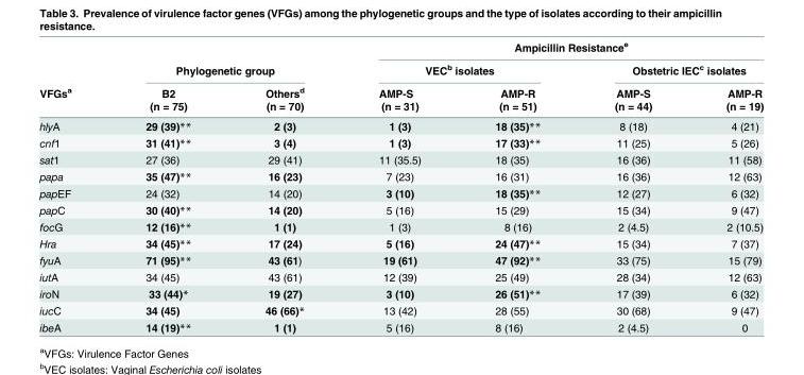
<table><thead><tr><td rowspan="4">VFGs<sup>a</sup></td><td></td><td></td><td colspan="4">Ampicillin Resistance<sup>e</sup></td></tr><tr><td colspan="2">Phylogenetic group</td><td colspan="2">VEC<sup>b</sup> isolates</td><td colspan="2">Obstetric IEC<sup>c</sup> isolates</td></tr><tr><td rowspan="2">B2 (n = 75)</td><td rowspan="2">Others<sup>d</sup> (n = 70)</td><td rowspan="2">AMP-S (n = 31)</td><td rowspan="2">AMP-R (n = 51)</td><td rowspan="2">AMP-S (n = 44)</td><td rowspan="2">AMP-R (n = 19)</td></tr><tr></tr></thead><tbody><tr><td>hlyA</td><td>29 (39)**</td><td>2 (3)</td><td>1 (3)</td><td>18 (35)**</td><td>8 (18)</td><td>4 (21)</td></tr><tr><td>cnf1</td><td>31 (41)**</td><td>3 (4)</td><td>1 (3)</td><td>17 (33)**</td><td>11 (25)</td><td>5 (26)</td></tr><tr><td>sat1</td><td>27 (36)</td><td>29 (41)</td><td>11 (35.5)</td><td>18 (35)</td><td>16 (36)</td><td>11 (58)</td></tr><tr><td>papa</td><td>35 (47)**</td><td>16 (23)</td><td>7 (23)</td><td>16 (31)</td><td>16 (36)</td><td>12 (63)</td></tr><tr><td>papEF</td><td>24 (32)</td><td>14 (20)</td><td>3 (10)</td><td>18 (35)**</td><td>12 (27)</td><td>6 (32)</td></tr><tr><td>papC</td><td>30 (40)**</td><td>14 (20)</td><td>5 (16)</td><td>15 (29)</td><td>15 (34)</td><td>9 (47)</td></tr><tr><td>focG</td><td>12 (16)**</td><td>1 (1)</td><td>1 (3)</td><td>8 (16)</td><td>2 (4.5)</td><td>2 (10.5)</td></tr><tr><td>Hra</td><td>34 (45)**</td><td>17 (24)</td><td>5 (16)</td><td>24 (47)**</td><td>15 (34)</td><td>7 (37)</td></tr><tr><td>fyuA</td><td>71 (95)**</td><td>43 (61)</td><td>19 (61)</td><td>47 (92)**</td><td>33 (75)</td><td>15 (79)</td></tr><tr><td>iutA</td><td>34 (45)</td><td>43 (61)</td><td>12 (39)</td><td>25 (49)</td><td>28 (34)</td><td>12 (63)</td></tr><tr><td>iroN</td><td>33 (44)*</td><td>19 (27)</td><td>3 (10)</td><td>26 (51)**</td><td>17 (39)</td><td>6 (32)</td></tr><tr><td>iucC</td><td>34 (45)</td><td>46 (66)*</td><td>13 (42)</td><td>28 (55)</td><td>30 (68)</td><td>9 (47)</td></tr><tr><td>ibeA</td><td>14 (19)**</td><td>1 (1)</td><td>5 (16)</td><td>8 (16)</td><td>2 (4.5)</td><td>0</td></tr></tbody></table>